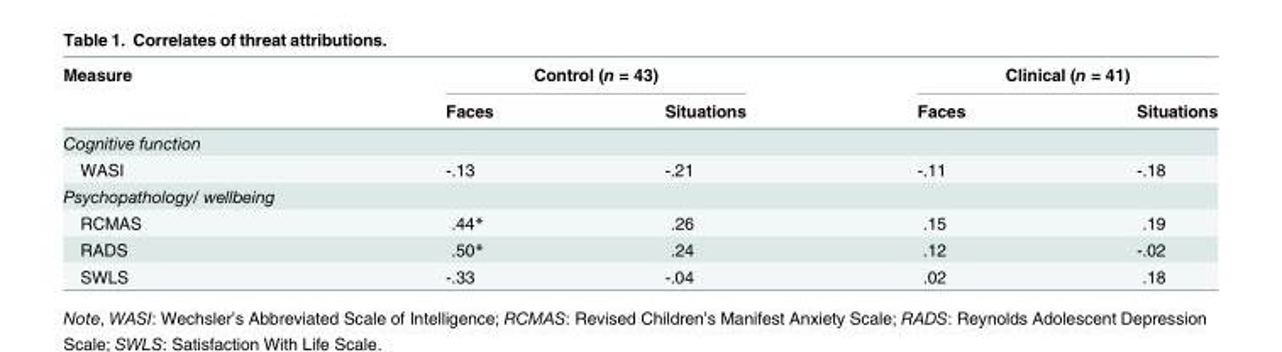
<table><thead><tr><td rowspan="2">Measure</td><td colspan="2">Control (n = 43)</td><td colspan="2">Clinical (n = 41)</td></tr><tr><td>Faces</td><td>Situations</td><td>Faces</td><td>Situations</td></tr></thead><tbody><tr><td colspan="5">Cognitive function</td></tr><tr><td>WASI</td><td>-.13</td><td>-.21</td><td>-.11</td><td>-.18</td></tr><tr><td colspan="5">Psychopathology/ wellbeing</td></tr><tr><td>RCMAS</td><td>.44*</td><td>.26</td><td>.15</td><td>.19</td></tr><tr><td>RADS</td><td>.50*</td><td>.24</td><td>.12</td><td>-.02</td></tr><tr><td>SWLS</td><td>-.33</td><td>-.04</td><td>.02</td><td>.18</td></tr></tbody></table>